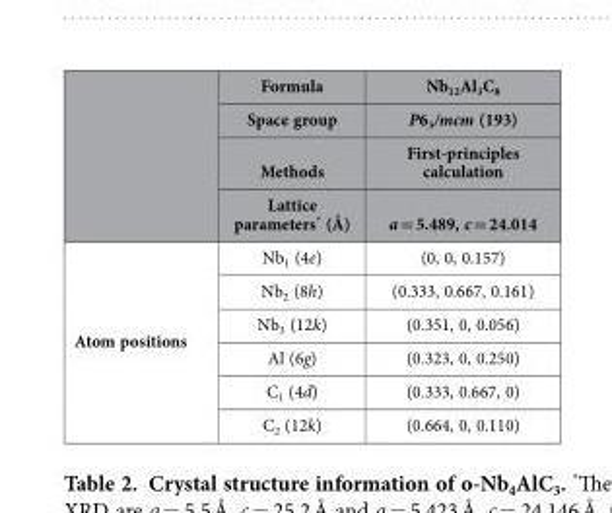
<table><thead><tr><td rowspan="4"></td><td rowspan="4">Formula Space group Methods Lattice parameters* (Å)</td><td rowspan="4">Nb<sub>12</sub>Al<sub>3</sub>C<sub>8</sub> P6<sub>3</sub>/mcm (193) First-principles calculation a = 5.489, c = 24.014</td></tr><tr></tr><tr></tr><tr></tr></thead><tbody><tr><td rowspan="6">Atom positions</td><td>Nb<sub>1</sub> (4e)</td><td>(0, 0, 0.157)</td></tr><tr><td>Nb<sub>2</sub> (8h)</td><td>(0.333, 0.667, 0.161)</td></tr><tr><td>Nb<sub>3</sub> (12k)</td><td>(0.351, 0, 0.056)</td></tr><tr><td>Al (6g)</td><td>(0.323, 0, 0.250)</td></tr><tr><td>C<sub>1</sub> (4d)</td><td>(0.333, 0.667, 0)</td></tr><tr><td>C<sub>2</sub> (12k)</td><td>(0.664, 0, 0.110)</td></tr></tbody></table>